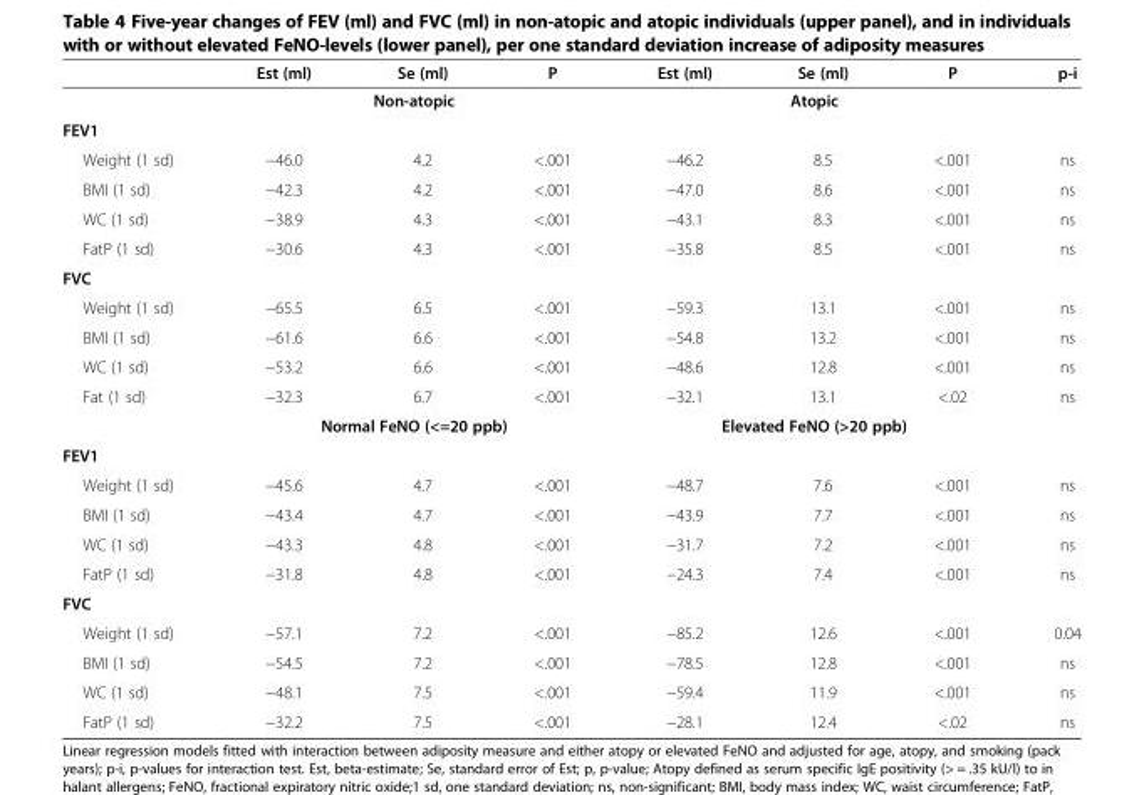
<table><thead><tr><td></td><td>Est (ml)</td><td>Se (ml)</td><td>P</td><td>Est (ml)</td><td>Se (ml)</td><td>P</td><td>p-i</td></tr></thead><tbody><tr><td></td><td colspan="3">Non-atopic</td><td colspan="3">Atopic</td><td></td></tr><tr><td colspan="8">FEV1</td></tr><tr><td>Weight (1 sd)</td><td>−46.0</td><td>4.2</td><td>&lt;.001</td><td>−46.2</td><td>8.5</td><td>&lt;.001</td><td>ns</td></tr><tr><td>BMI (1 sd)</td><td>−42.3</td><td>4.2</td><td>&lt;.001</td><td>−47.0</td><td>8.6</td><td>&lt;.001</td><td>ns</td></tr><tr><td>WC (1 sd)</td><td>−38.9</td><td>4.3</td><td>&lt;.001</td><td>−43.1</td><td>8.3</td><td>&lt;.001</td><td>ns</td></tr><tr><td>FatP (1 sd)</td><td>−30.6</td><td>4.3</td><td>&lt;.001</td><td>−35.8</td><td>8.5</td><td>&lt;.001</td><td>ns</td></tr><tr><td colspan="8">FVC</td></tr><tr><td>Weight (1 sd)</td><td>−65.5</td><td>6.5</td><td>&lt;.001</td><td>−59.3</td><td>13.1</td><td>&lt;.001</td><td>ns</td></tr><tr><td>BMI (1 sd)</td><td>−61.6</td><td>6.6</td><td>&lt;.001</td><td>−54.8</td><td>13.2</td><td>&lt;.001</td><td>ns</td></tr><tr><td>WC (1 sd)</td><td>−53.2</td><td>6.6</td><td>&lt;.001</td><td>−48.6</td><td>12.8</td><td>&lt;.001</td><td>ns</td></tr><tr><td rowspan="2">Fat (1 sd)</td><td>−32.3</td><td>6.7</td><td>&lt;.001</td><td>−32.1</td><td>13.1</td><td>&lt;.02</td><td>ns</td></tr><tr><td colspan="3">Normal FeNO (&lt;=20 ppb)</td><td colspan="3">Elevated FeNO (&gt;20 ppb)</td><td></td></tr><tr><td colspan="8">FEV1</td></tr><tr><td>Weight (1 sd)</td><td>−45.6</td><td>4.7</td><td>&lt;.001</td><td>−48.7</td><td>7.6</td><td>&lt;.001</td><td>ns</td></tr><tr><td>BMI (1 sd)</td><td>−43.4</td><td>4.7</td><td>&lt;.001</td><td>−43.9</td><td>7.7</td><td>&lt;.001</td><td>ns</td></tr><tr><td>WC (1 sd)</td><td>−43.3</td><td>4.8</td><td>&lt;.001</td><td>−31.7</td><td>7.2</td><td>&lt;.001</td><td>ns</td></tr><tr><td>FatP (1 sd)</td><td>−31.8</td><td>4.8</td><td>&lt;.001</td><td>−24.3</td><td>7.4</td><td>&lt;.001</td><td>ns</td></tr><tr><td colspan="8">FVC</td></tr><tr><td>Weight (1 sd)</td><td>−57.1</td><td>7.2</td><td>&lt;.001</td><td>−85.2</td><td>12.6</td><td>&lt;.001</td><td>0.04</td></tr><tr><td>BMI (1 sd)</td><td>−54.5</td><td>7.2</td><td>&lt;.001</td><td>−78.5</td><td>12.8</td><td>&lt;.001</td><td>ns</td></tr><tr><td>WC (1 sd)</td><td>−48.1</td><td>7.5</td><td>&lt;.001</td><td>−59.4</td><td>11.9</td><td>&lt;.001</td><td>ns</td></tr><tr><td>FatP (1 sd)</td><td>−32.2</td><td>7.5</td><td>&lt;.001</td><td>−28.1</td><td>12.4</td><td>&lt;.02</td><td>ns</td></tr></tbody></table>